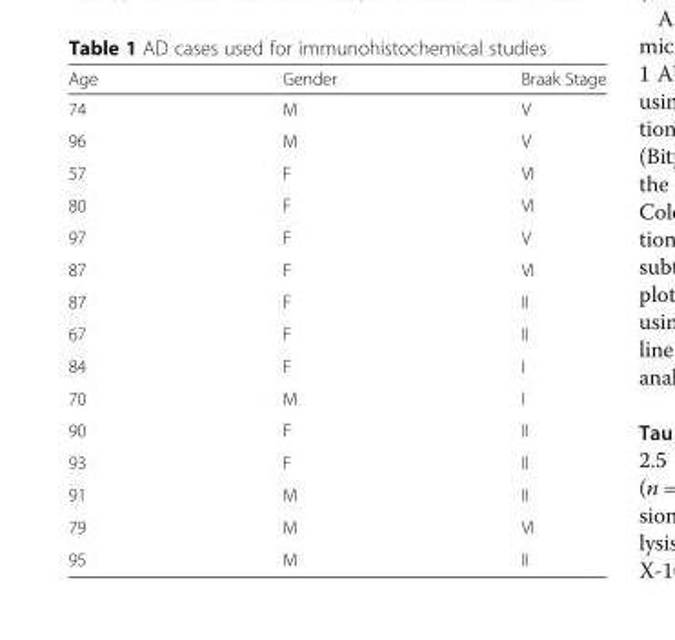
<table><thead><tr><td>Age</td><td>Gender</td><td>Braak Stage</td></tr></thead><tbody><tr><td>74</td><td>M</td><td>V</td></tr><tr><td>96</td><td>M</td><td>V</td></tr><tr><td>57</td><td>F</td><td>VI</td></tr><tr><td>80</td><td>F</td><td>VI</td></tr><tr><td>97</td><td>F</td><td>V</td></tr><tr><td>87</td><td>F</td><td>VI</td></tr><tr><td>87</td><td>F</td><td>II</td></tr><tr><td>67</td><td>F</td><td>II</td></tr><tr><td>84</td><td>F</td><td>I</td></tr><tr><td>70</td><td>M</td><td>I</td></tr><tr><td>90</td><td>F</td><td>II</td></tr><tr><td>93</td><td>F</td><td>II</td></tr><tr><td>91</td><td>M</td><td>II</td></tr><tr><td>79</td><td>M</td><td>VI</td></tr><tr><td>95</td><td>M</td><td>II</td></tr></tbody></table>